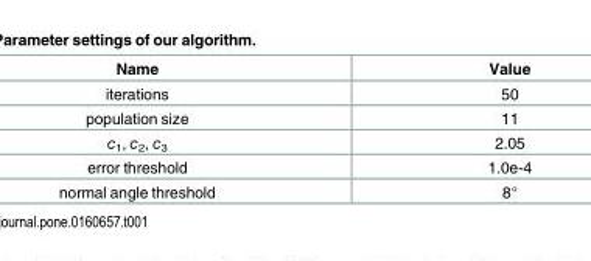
<table><thead><tr><td>Name</td><td>Value</td></tr></thead><tbody><tr><td>iterations</td><td>50</td></tr><tr><td>population size</td><td>11</td></tr><tr><td>c<sub>1</sub>, c<sub>2</sub>, c<sub>3</sub></td><td>2.05</td></tr><tr><td>error threshold</td><td>1.0e-4</td></tr><tr><td>normal angle threshold</td><td>8°</td></tr></tbody></table>